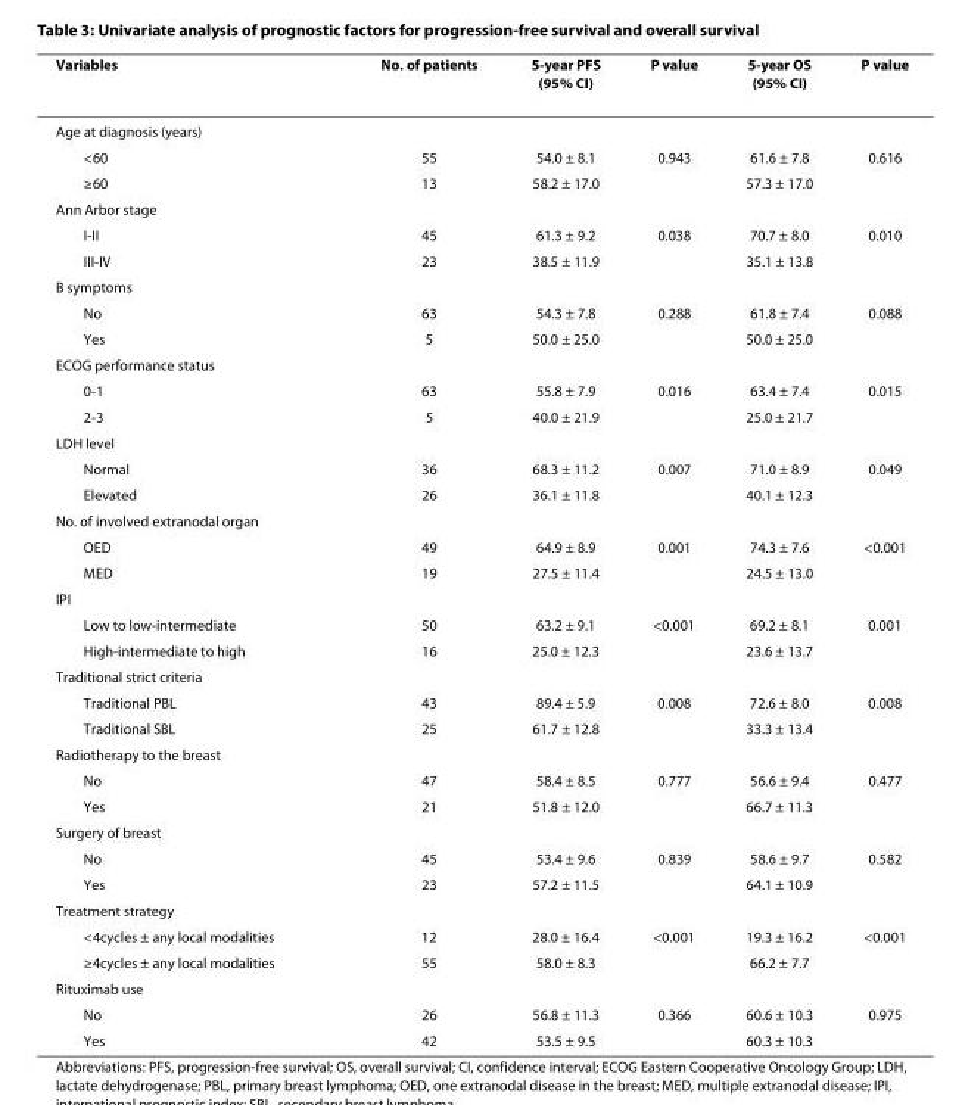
<table><thead><tr><td>Variables</td><td>No. of patients</td><td>5-year PFS (95% CI)</td><td>P value</td><td>5-year OS (95% CI)</td><td>P value</td></tr></thead><tbody><tr><td colspan="6">Age at diagnosis (years)</td></tr><tr><td>&lt;60</td><td>55</td><td>54.0 ± 8.1</td><td>0.943</td><td>61.6 ± 7.8</td><td>0.616</td></tr><tr><td>≥60</td><td>13</td><td>58.2 ± 17.0</td><td></td><td>57.3 ± 17.0</td><td></td></tr><tr><td colspan="6">Ann Arbor stage</td></tr><tr><td>I-II</td><td>45</td><td>61.3 ± 9.2</td><td>0.038</td><td>70.7 ± 8.0</td><td>0.010</td></tr><tr><td>III-IV</td><td>23</td><td>38.5 ± 11.9</td><td></td><td>35.1 ± 13.8</td><td></td></tr><tr><td colspan="6">B symptoms</td></tr><tr><td>No</td><td>63</td><td>54.3 ± 7.8</td><td>0.288</td><td>61.8 ± 7.4</td><td>0.088</td></tr><tr><td>Yes</td><td>5</td><td>50.0 ± 25.0</td><td></td><td>50.0 ± 25.0</td><td></td></tr><tr><td colspan="6">ECOG performance status</td></tr><tr><td>0-1</td><td>63</td><td>55.8 ± 7.9</td><td>0.016</td><td>63.4 ± 7.4</td><td>0.015</td></tr><tr><td>2-3</td><td>5</td><td>40.0 ± 21.9</td><td></td><td>25.0 ± 21.7</td><td></td></tr><tr><td colspan="6">LDH level</td></tr><tr><td>Normal</td><td>36</td><td>68.3 ± 11.2</td><td>0.007</td><td>71.0 ± 8.9</td><td>0.049</td></tr><tr><td>Elevated</td><td>26</td><td>36.1 ± 11.8</td><td></td><td>40.1 ± 12.3</td><td></td></tr><tr><td colspan="6">No. of involved extranodal organ</td></tr><tr><td>OED</td><td>49</td><td>64.9 ± 8.9</td><td>0.001</td><td>74.3 ± 7.6</td><td>&lt;0.001</td></tr><tr><td>MED</td><td>19</td><td>27.5 ± 11.4</td><td></td><td>24.5 ± 13.0</td><td></td></tr><tr><td colspan="6">IPI</td></tr><tr><td>Low to low-intermediate</td><td>50</td><td>63.2 ± 9.1</td><td>&lt;0.001</td><td>69.2 ± 8.1</td><td>0.001</td></tr><tr><td>High-intermediate to high</td><td>16</td><td>25.0 ± 12.3</td><td></td><td>23.6 ± 13.7</td><td></td></tr><tr><td colspan="6">Traditional strict criteria</td></tr><tr><td>Traditional PBL</td><td>43</td><td>89.4 ± 5.9</td><td>0.008</td><td>72.6 ± 8.0</td><td>0.008</td></tr><tr><td>Traditional SBL</td><td>25</td><td>61.7 ± 12.8</td><td></td><td>33.3 ± 13.4</td><td></td></tr><tr><td colspan="6">Radiotherapy to the breast</td></tr><tr><td>No</td><td>47</td><td>58.4 ± 8.5</td><td>0.777</td><td>56.6 ± 9.4</td><td>0.477</td></tr><tr><td>Yes</td><td>21</td><td>51.8 ± 12.0</td><td></td><td>66.7 ± 11.3</td><td></td></tr><tr><td colspan="6">Surgery of breast</td></tr><tr><td>No</td><td>45</td><td>53.4 ± 9.6</td><td>0.839</td><td>58.6 ± 9.7</td><td>0.582</td></tr><tr><td>Yes</td><td>23</td><td>57.2 ± 11.5</td><td></td><td>64.1 ± 10.9</td><td></td></tr><tr><td colspan="6">Treatment strategy</td></tr><tr><td>&lt;4cycles ± any local modalities</td><td>12</td><td>28.0 ± 16.4</td><td>&lt;0.001</td><td>19.3 ± 16.2</td><td>&lt;0.001</td></tr><tr><td>≥4cycles ± any local modalities</td><td>55</td><td>58.0 ± 8.3</td><td></td><td>66.2 ± 7.7</td><td></td></tr><tr><td colspan="6">Rituximab use</td></tr><tr><td>No</td><td>26</td><td>56.8 ± 11.3</td><td>0.366</td><td>60.6 ± 10.3</td><td>0.975</td></tr><tr><td>Yes</td><td>42</td><td>53.5 ± 9.5</td><td></td><td>60.3 ± 10.3</td><td></td></tr></tbody></table>